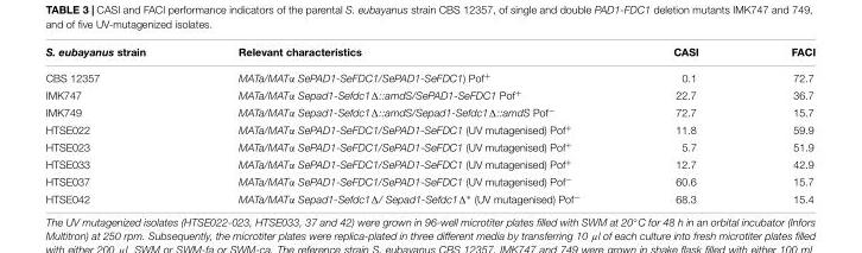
<table><thead><tr><td>S. eubayanus strain</td><td>Relevant characteristics</td><td>CASI</td><td>FACI</td></tr></thead><tbody><tr><td>CBS 12357</td><td>MATa/MATα SePAD1-SeFDC1/SePAD1-SeFDC1) Pof<sup>+</sup></td><td>0.1</td><td>72.7</td></tr><tr><td>IMK747</td><td>MATa/MATα Sepad1-Sefdc1Δ::amdS/SePAD1-SeFDC1 Pof<sup>+</sup></td><td>22.7</td><td>36.7</td></tr><tr><td>IMK749</td><td>MATa/MATα Sepad1-Sefdc1Δ::amdS/Sepad1-Sefdc1Δ::amdS Pof<sup>−</sup></td><td>72.7</td><td>15.7</td></tr><tr><td>HTSE022</td><td>MATa/MATα SePAD1-SeFDC1/SePAD1-SeFDC1 (UV mutagenised) Pof<sup>+</sup></td><td>11.8</td><td>59.9</td></tr><tr><td>HTSE023</td><td>MATa/MATα SePAD1-SeFDC1/SePAD1-SeFDC1 (UV mutagenised) Pof<sup>+</sup></td><td>5.7</td><td>51.9</td></tr><tr><td>HTSE033</td><td>MATa/MATα SePAD1-SeFDC1/SePAD1-SeFDC1 (UV mutagenised) Pof<sup>+</sup></td><td>12.7</td><td>42.9</td></tr><tr><td>HTSE037</td><td>MATa/MATα SePAD1-SeFDC1/SePAD1-SeFDC1 (UV mutagenised) Pof<sup>−</sup></td><td>60.6</td><td>15.7</td></tr><tr><td>HTSE042</td><td>MATa/MATα Sepad1-Sefdc1Δ/ Sepad1-Sefdc1Δ∗ (UV mutagenised) Pof<sup>−</sup></td><td>68.3</td><td>15.4</td></tr></tbody></table>